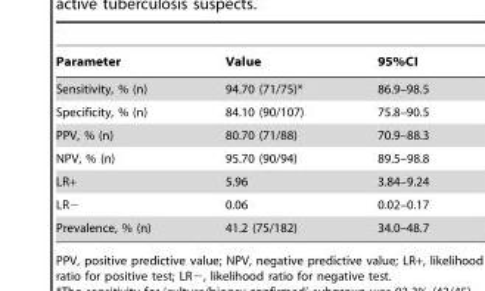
<table><thead><tr><td>Parameter</td><td>Value</td><td>95%CI</td></tr></thead><tbody><tr><td>Sensitivity, % (n)</td><td>94.70 (71/75)*</td><td>86.9–98.5</td></tr><tr><td>Specificity, % (n)</td><td>84.10 (90/107)</td><td>75.8–90.5</td></tr><tr><td>PPV, % (n)</td><td>80.70 (71/88)</td><td>70.9–88.3</td></tr><tr><td>NPV, % (n)</td><td>95.70 (90/94)</td><td>89.5–98.8</td></tr><tr><td>LR+</td><td>5.96</td><td>3.84–9.24</td></tr><tr><td>LR−</td><td>0.06</td><td>0.02–0.17</td></tr><tr><td>Prevalence, % (n)</td><td>41.2 (75/182)</td><td>34.0–48.7</td></tr></tbody></table>